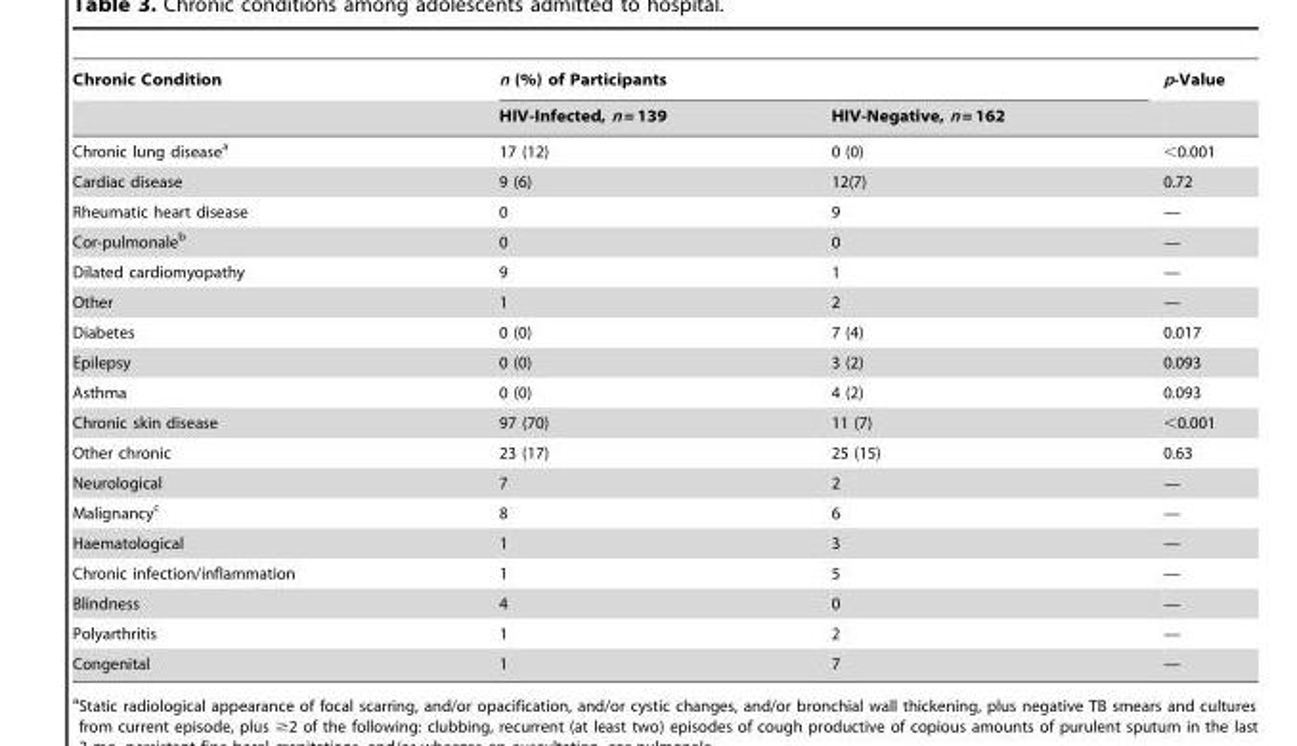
<table><thead><tr><td rowspan="2">Chronic Condition</td><td colspan="2">n (%) of Participants</td><td rowspan="2">p-Value</td></tr><tr><td>HIV-Infected, n = 139</td><td>HIV-Negative, n = 162</td></tr></thead><tbody><tr><td>Chronic lung disease<sup>a</sup></td><td>17 (12)</td><td>0 (0)</td><td>&lt;0.001</td></tr><tr><td>Cardiac disease</td><td>9 (6)</td><td>12(7)</td><td>0.72</td></tr><tr><td>Rheumatic heart disease</td><td>0</td><td>9</td><td>—</td></tr><tr><td>Cor-pulmonale<sup>b</sup></td><td>0</td><td>0</td><td>—</td></tr><tr><td>Dilated cardiomyopathy</td><td>9</td><td>1</td><td>—</td></tr><tr><td>Other</td><td>1</td><td>2</td><td>—</td></tr><tr><td>Diabetes</td><td>0 (0)</td><td>7 (4)</td><td>0.017</td></tr><tr><td>Epilepsy</td><td>0 (0)</td><td>3 (2)</td><td>0.093</td></tr><tr><td>Asthma</td><td>0 (0)</td><td>4 (2)</td><td>0.093</td></tr><tr><td>Chronic skin disease</td><td>97 (70)</td><td>11 (7)</td><td>&lt;0.001</td></tr><tr><td>Other chronic</td><td>23 (17)</td><td>25 (15)</td><td>0.63</td></tr><tr><td>Neurological</td><td>7</td><td>2</td><td>—</td></tr><tr><td>Malignancy<sup>c</sup></td><td>8</td><td>6</td><td>—</td></tr><tr><td>Haematological</td><td>1</td><td>3</td><td>—</td></tr><tr><td>Chronic infection/inflammation</td><td>1</td><td>5</td><td>—</td></tr><tr><td>Blindness</td><td>4</td><td>0</td><td>—</td></tr><tr><td>Polyarthritis</td><td>1</td><td>2</td><td>—</td></tr><tr><td>Congenital</td><td>1</td><td>7</td><td>—</td></tr></tbody></table>